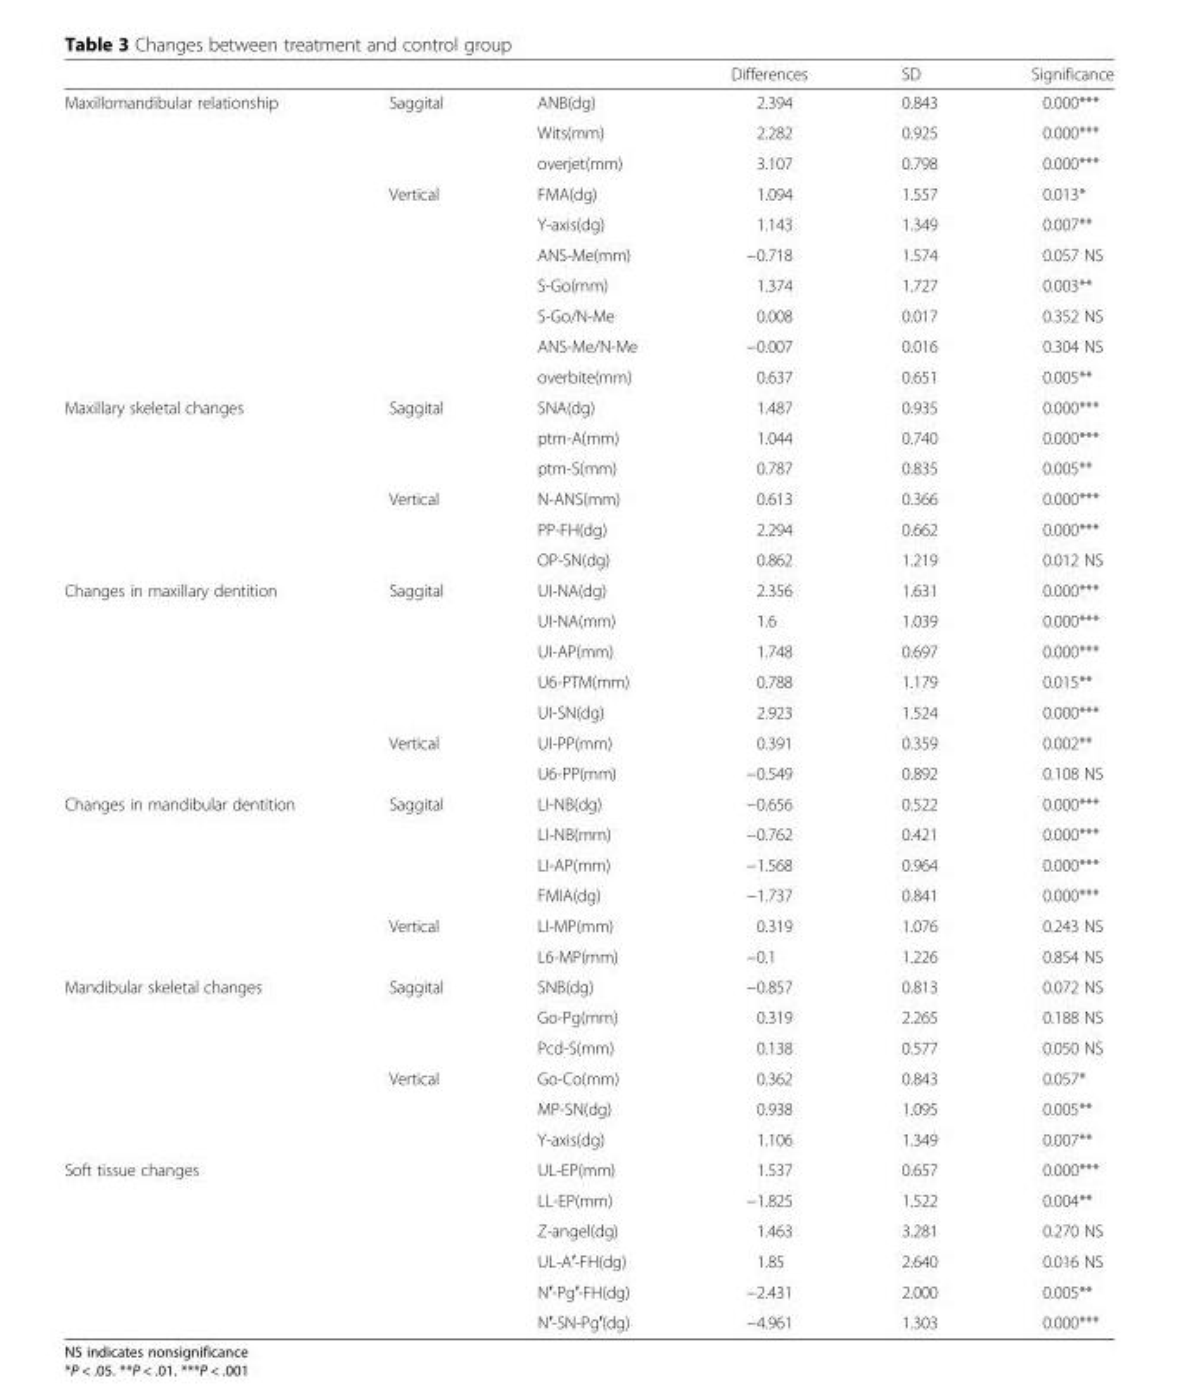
<table><thead><tr><td></td><td></td><td></td><td>Differences</td><td>SD</td><td>Significance</td></tr></thead><tbody><tr><td rowspan="10">Maxillomandibular relationship</td><td>Saggital</td><td>ANB(dg)</td><td>2.394</td><td>0.843</td><td>0.000***</td></tr><tr><td></td><td>Wits(mm)</td><td>2.282</td><td>0.925</td><td>0.000***</td></tr><tr><td></td><td>overjet(mm)</td><td>3.107</td><td>0.798</td><td>0.000***</td></tr><tr><td>Vertical</td><td>FMA(dg)</td><td>1.094</td><td>1.557</td><td>0.013*</td></tr><tr><td></td><td>Y-axis(dg)</td><td>1.143</td><td>1.349</td><td>0.007**</td></tr><tr><td></td><td>ANS-Me(mm)</td><td>−0.718</td><td>1.574</td><td>0.057 NS</td></tr><tr><td></td><td>S-Go(mm)</td><td>1.374</td><td>1.727</td><td>0.003**</td></tr><tr><td></td><td>S-Go/N-Me</td><td>0.008</td><td>0.017</td><td>0.352 NS</td></tr><tr><td></td><td>ANS-Me/N-Me</td><td>−0.007</td><td>0.016</td><td>0.304 NS</td></tr><tr><td></td><td>overbite(mm)</td><td>0.637</td><td>0.651</td><td>0.005**</td></tr><tr><td rowspan="6">Maxillary skeletal changes</td><td>Saggital</td><td>SNA(dg)</td><td>1.487</td><td>0.935</td><td>0.000***</td></tr><tr><td></td><td>ptm-A(mm)</td><td>1.044</td><td>0.740</td><td>0.000***</td></tr><tr><td></td><td>ptm-S(mm)</td><td>0.787</td><td>0.835</td><td>0.005**</td></tr><tr><td>Vertical</td><td>N-ANS(mm)</td><td>0.613</td><td>0.366</td><td>0.000***</td></tr><tr><td></td><td>PP-FH(dg)</td><td>2.294</td><td>0.662</td><td>0.000***</td></tr><tr><td></td><td>OP-SN(dg)</td><td>0.862</td><td>1.219</td><td>0.012 NS</td></tr><tr><td rowspan="7">Changes in maxillary dentition</td><td>Saggital</td><td>UI-NA(dg)</td><td>2.356</td><td>1.631</td><td>0.000***</td></tr><tr><td></td><td>UI-NA(mm)</td><td>1.6</td><td>1.039</td><td>0.000***</td></tr><tr><td></td><td>UI-AP(mm)</td><td>1.748</td><td>0.697</td><td>0.000***</td></tr><tr><td></td><td>U6-PTM(mm)</td><td>0.788</td><td>1.179</td><td>0.015**</td></tr><tr><td></td><td>UI-SN(dg)</td><td>2.923</td><td>1.524</td><td>0.000***</td></tr><tr><td>Vertical</td><td>UI-PP(mm)</td><td>0.391</td><td>0.359</td><td>0.002**</td></tr><tr><td></td><td>U6-PP(mm)</td><td>−0.549</td><td>0.892</td><td>0.108 NS</td></tr><tr><td rowspan="6">Changes in mandibular dentition</td><td>Saggital</td><td>LI-NB(dg)</td><td>−0.656</td><td>0.522</td><td>0.000***</td></tr><tr><td></td><td>LI-NB(mm)</td><td>−0.762</td><td>0.421</td><td>0.000***</td></tr><tr><td></td><td>LI-AP(mm)</td><td>−1.568</td><td>0.964</td><td>0.000***</td></tr><tr><td></td><td>FMIA(dg)</td><td>−1.737</td><td>0.841</td><td>0.000***</td></tr><tr><td>Vertical</td><td>LI-MP(mm)</td><td>0.319</td><td>1.076</td><td>0.243 NS</td></tr><tr><td></td><td>L6-MP(mm)</td><td>−0.1</td><td>1.226</td><td>0.854 NS</td></tr><tr><td rowspan="6">Mandibular skeletal changes</td><td>Saggital</td><td>SNB(dg)</td><td>−0.857</td><td>0.813</td><td>0.072 NS</td></tr><tr><td></td><td>Go-Pg(mm)</td><td>0.319</td><td>2.265</td><td>0.188 NS</td></tr><tr><td></td><td>Pcd-S(mm)</td><td>0.138</td><td>0.577</td><td>0.050 NS</td></tr><tr><td>Vertical</td><td>Go-Co(mm)</td><td>0.362</td><td>0.843</td><td>0.057*</td></tr><tr><td></td><td>MP-SN(dg)</td><td>0.938</td><td>1.095</td><td>0.005**</td></tr><tr><td></td><td>Y-axis(dg)</td><td>1.106</td><td>1.349</td><td>0.007**</td></tr><tr><td rowspan="6">Soft tissue changes</td><td></td><td>UL-EP(mm)</td><td>1.537</td><td>0.657</td><td>0.000***</td></tr><tr><td></td><td>LL-EP(mm)</td><td>−1.825</td><td>1.522</td><td>0.004**</td></tr><tr><td></td><td>Z-angel(dg)</td><td>1.463</td><td>3.281</td><td>0.270 NS</td></tr><tr><td></td><td>UL-A′-FH(dg)</td><td>1.85</td><td>2.640</td><td>0.016 NS</td></tr><tr><td></td><td>N′-Pg′-FH(dg)</td><td>−2.431</td><td>2.000</td><td>0.005**</td></tr><tr><td></td><td>N′-SN-Pg′(dg)</td><td>−4.961</td><td>1.303</td><td>0.000***</td></tr></tbody></table>